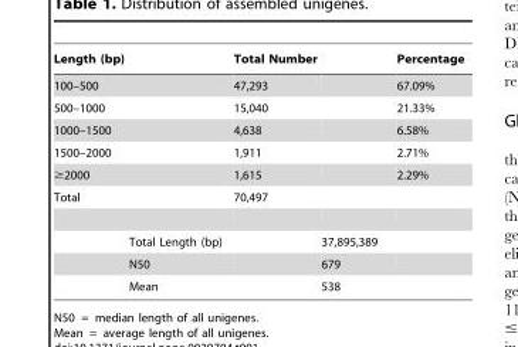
<table><thead><tr><td>Length (bp)</td><td></td><td>Total Number</td><td></td><td>Percentage</td></tr></thead><tbody><tr><td>100–500</td><td></td><td>47,293</td><td></td><td>67.09%</td></tr><tr><td>500–1000</td><td></td><td>15,040</td><td></td><td>21.33%</td></tr><tr><td>1000–1500</td><td></td><td>4,638</td><td></td><td>6.58%</td></tr><tr><td>1500–2000</td><td></td><td>1,911</td><td></td><td>2.71%</td></tr><tr><td>≥2000</td><td></td><td>1,615</td><td></td><td>2.29%</td></tr><tr><td rowspan="4">Total</td><td></td><td>70,497</td><td></td><td></td></tr><tr><td>Total Length (bp)</td><td></td><td>37,895,389</td><td></td></tr><tr><td>N50</td><td></td><td>679</td><td></td></tr><tr><td>Mean</td><td></td><td>538</td><td></td></tr></tbody></table>